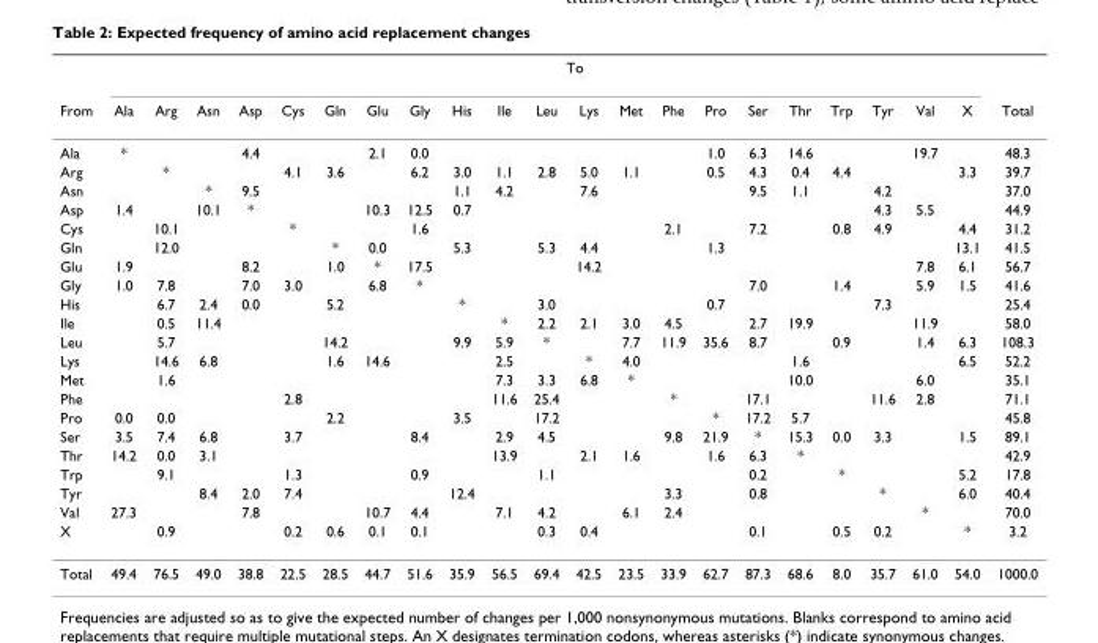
<table><thead><tr><td rowspan="2">From</td><td colspan="22">To</td></tr><tr><td>Ala</td><td>Arg</td><td>Asn</td><td>Asp</td><td>Cys</td><td>Gln</td><td>Glu</td><td>Gly</td><td>His</td><td>Ile</td><td>Leu</td><td>Lys</td><td>Met</td><td>Phe</td><td>Pro</td><td>Ser</td><td>Thr</td><td>Trp</td><td>Tyr</td><td>Val</td><td>X</td><td>Total</td></tr></thead><tbody><tr><td>Ala</td><td>*</td><td></td><td></td><td>4.4</td><td></td><td></td><td>2.1</td><td>0.0</td><td></td><td></td><td></td><td></td><td></td><td></td><td>1.0</td><td>6.3</td><td>14.6</td><td></td><td></td><td>19.7</td><td></td><td>48.3</td></tr><tr><td>Arg</td><td></td><td>*</td><td></td><td></td><td>4.1</td><td>3.6</td><td></td><td>6.2</td><td>3.0</td><td>1.1</td><td>2.8</td><td>5.0</td><td>1.1</td><td></td><td>0.5</td><td>4.3</td><td>0.4</td><td>4.4</td><td></td><td></td><td>3.3</td><td>39.7</td></tr><tr><td>Asn</td><td></td><td></td><td>*</td><td>9.5</td><td></td><td></td><td></td><td></td><td>1.1</td><td>4.2</td><td></td><td>7.6</td><td></td><td></td><td></td><td>9.5</td><td>1.1</td><td></td><td>4.2</td><td></td><td></td><td>37.0</td></tr><tr><td>Asp</td><td>1.4</td><td></td><td>10.1</td><td>*</td><td></td><td></td><td>10.3</td><td>12.5</td><td>0.7</td><td></td><td></td><td></td><td></td><td></td><td></td><td></td><td></td><td></td><td>4.3</td><td>5.5</td><td></td><td>44.9</td></tr><tr><td>Cys</td><td></td><td>10.1</td><td></td><td></td><td>*</td><td></td><td></td><td>1.6</td><td></td><td></td><td></td><td></td><td></td><td>2.1</td><td></td><td>7.2</td><td></td><td>0.8</td><td>4.9</td><td></td><td>4.4</td><td>31.2</td></tr><tr><td>Gln</td><td></td><td>12.0</td><td></td><td></td><td></td><td>*</td><td>0.0</td><td></td><td>5.3</td><td></td><td>5.3</td><td>4.4</td><td></td><td></td><td>1.3</td><td></td><td></td><td></td><td></td><td></td><td>13.1</td><td>41.5</td></tr><tr><td>Glu</td><td>1.9</td><td></td><td></td><td>8.2</td><td></td><td>1.0</td><td>*</td><td>17.5</td><td></td><td></td><td></td><td>14.2</td><td></td><td></td><td></td><td></td><td></td><td></td><td></td><td>7.8</td><td>6.1</td><td>56.7</td></tr><tr><td>Gly</td><td>1.0</td><td>7.8</td><td></td><td>7.0</td><td>3.0</td><td></td><td>6.8</td><td>*</td><td></td><td></td><td></td><td></td><td></td><td></td><td></td><td>7.0</td><td></td><td>1.4</td><td></td><td>5.9</td><td>1.5</td><td>41.6</td></tr><tr><td>His</td><td></td><td>6.7</td><td>2.4</td><td>0.0</td><td></td><td>5.2</td><td></td><td></td><td>*</td><td></td><td>3.0</td><td></td><td></td><td></td><td>0.7</td><td></td><td></td><td></td><td>7.3</td><td></td><td></td><td>25.4</td></tr><tr><td>Ile</td><td></td><td>0.5</td><td>11.4</td><td></td><td></td><td></td><td></td><td></td><td></td><td>*</td><td>2.2</td><td>2.1</td><td>3.0</td><td>4.5</td><td></td><td>2.7</td><td>19.9</td><td></td><td></td><td>11.9</td><td></td><td>58.0</td></tr><tr><td>Leu</td><td></td><td>5.7</td><td></td><td></td><td></td><td>14.2</td><td></td><td></td><td>9.9</td><td>5.9</td><td>*</td><td></td><td>7.7</td><td>11.9</td><td>35.6</td><td>8.7</td><td></td><td>0.9</td><td></td><td>1.4</td><td>6.3</td><td>108.3</td></tr><tr><td>Lys</td><td></td><td>14.6</td><td>6.8</td><td></td><td></td><td>1.6</td><td>14.6</td><td></td><td></td><td>2.5</td><td></td><td>*</td><td>4.0</td><td></td><td></td><td></td><td>1.6</td><td></td><td></td><td></td><td>6.5</td><td>52.2</td></tr><tr><td>Met</td><td></td><td>1.6</td><td></td><td></td><td></td><td></td><td></td><td></td><td></td><td>7.3</td><td>3.3</td><td>6.8</td><td>*</td><td></td><td></td><td></td><td>10.0</td><td></td><td></td><td>6.0</td><td></td><td>35.1</td></tr><tr><td>Phe</td><td></td><td></td><td></td><td></td><td>2.8</td><td></td><td></td><td></td><td></td><td>11.6</td><td>25.4</td><td></td><td></td><td>*</td><td></td><td>17.1</td><td></td><td></td><td>11.6</td><td>2.8</td><td></td><td>71.1</td></tr><tr><td>Pro</td><td>0.0</td><td>0.0</td><td></td><td></td><td></td><td>2.2</td><td></td><td></td><td>3.5</td><td></td><td>17.2</td><td></td><td></td><td></td><td>*</td><td>17.2</td><td>5.7</td><td></td><td></td><td></td><td></td><td>45.8</td></tr><tr><td>Ser</td><td>3.5</td><td>7.4</td><td>6.8</td><td></td><td>3.7</td><td></td><td></td><td>8.4</td><td></td><td>2.9</td><td>4.5</td><td></td><td></td><td>9.8</td><td>21.9</td><td>*</td><td>15.3</td><td>0.0</td><td>3.3</td><td></td><td>1.5</td><td>89.1</td></tr><tr><td>Thr</td><td>14.2</td><td>0.0</td><td>3.1</td><td></td><td></td><td></td><td></td><td></td><td></td><td>13.9</td><td></td><td>2.1</td><td>1.6</td><td></td><td>1.6</td><td>6.3</td><td>*</td><td></td><td></td><td></td><td></td><td>42.9</td></tr><tr><td>Trp</td><td></td><td>9.1</td><td></td><td></td><td>1.3</td><td></td><td></td><td>0.9</td><td></td><td></td><td>1.1</td><td></td><td></td><td></td><td></td><td>0.2</td><td></td><td>*</td><td></td><td></td><td>5.2</td><td>17.8</td></tr><tr><td>Tyr</td><td></td><td></td><td>8.4</td><td>2.0</td><td>7.4</td><td></td><td></td><td></td><td>12.4</td><td></td><td></td><td></td><td></td><td>3.3</td><td></td><td>0.8</td><td></td><td></td><td>*</td><td></td><td>6.0</td><td>40.4</td></tr><tr><td>Val</td><td>27.3</td><td></td><td></td><td>7.8</td><td></td><td></td><td>10.7</td><td>4.4</td><td></td><td>7.1</td><td>4.2</td><td></td><td>6.1</td><td>2.4</td><td></td><td></td><td></td><td></td><td></td><td>*</td><td></td><td>70.0</td></tr><tr><td>X</td><td></td><td>0.9</td><td></td><td></td><td>0.2</td><td>0.6</td><td>0.1</td><td>0.1</td><td></td><td></td><td>0.3</td><td>0.4</td><td></td><td></td><td></td><td>0.1</td><td></td><td>0.5</td><td>0.2</td><td></td><td>*</td><td>3.2</td></tr><tr><td>Total</td><td>49.4</td><td>76.5</td><td>49.0</td><td>38.8</td><td>22.5</td><td>28.5</td><td>44.7</td><td>51.6</td><td>35.9</td><td>56.5</td><td>69.4</td><td>42.5</td><td>23.5</td><td>33.9</td><td>62.7</td><td>87.3</td><td>68.6</td><td>8.0</td><td>35.7</td><td>61.0</td><td>54.0</td><td>1000.0</td></tr></tbody></table>